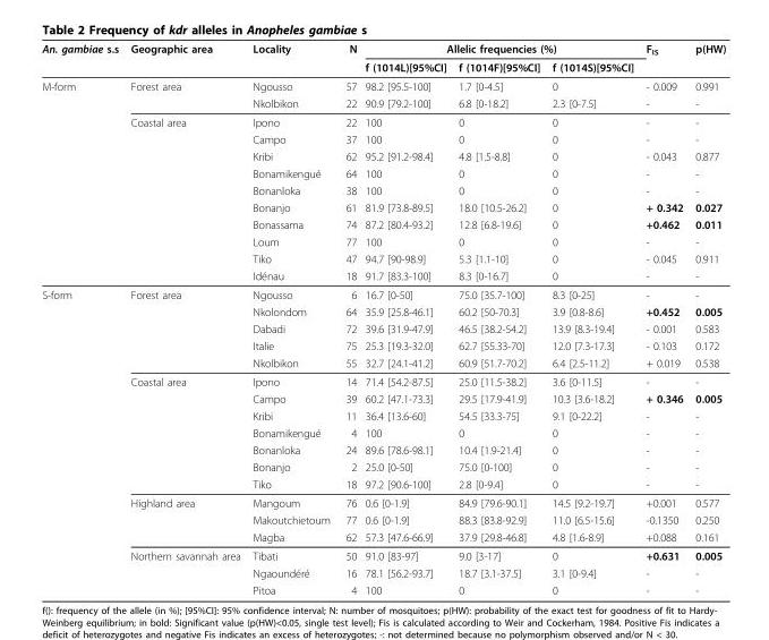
<table><thead><tr><td rowspan="2">An. gambiae s.s</td><td rowspan="2">Geographic area</td><td rowspan="2">Locality</td><td rowspan="2">N</td><td colspan="3">Allelic frequencies (%)</td><td rowspan="2">F<sub>IS</sub></td><td rowspan="2">p(HW)</td></tr><tr><td>f (1014L)[95%CI]</td><td>f (1014F)[95%CI]</td><td>f (1014S)[95%CI]</td></tr></thead><tbody><tr><td rowspan="12">M-form</td><td>Forest area</td><td>Ngousso</td><td>57</td><td>98.2 [95.5-100]</td><td>1.7 [0-4.5]</td><td>0</td><td>- 0.009</td><td>0.991</td></tr><tr><td></td><td>Nkolbikon</td><td>22</td><td>90.9 [79.2-100]</td><td>6.8 [0-18.2]</td><td>2.3 [0-7.5]</td><td>-</td><td>-</td></tr><tr><td>Coastal area</td><td>Ipono</td><td>22</td><td>100</td><td>0</td><td>0</td><td>-</td><td>-</td></tr><tr><td></td><td>Campo</td><td>37</td><td>100</td><td>0</td><td>0</td><td>-</td><td>-</td></tr><tr><td></td><td>Kribi</td><td>62</td><td>95.2 [91.2-98.4]</td><td>4.8 [1.5-8.8]</td><td>0</td><td>- 0.043</td><td>0.877</td></tr><tr><td></td><td>Bonamikengué</td><td>64</td><td>100</td><td>0</td><td>0</td><td>-</td><td>-</td></tr><tr><td></td><td>Bonanloka</td><td>38</td><td>100</td><td>0</td><td>0</td><td>-</td><td>-</td></tr><tr><td></td><td>Bonanjo</td><td>61</td><td>81.9 [73.8-89.5]</td><td>18.0 [10.5-26.2]</td><td>0</td><td>+ 0.342</td><td>0.027</td></tr><tr><td></td><td>Bonassama</td><td>74</td><td>87.2 [80.4-93.2]</td><td>12.8 [6.8-19.6]</td><td>0</td><td>+0.462</td><td>0.011</td></tr><tr><td></td><td>Loum</td><td>77</td><td>100</td><td>0</td><td>0</td><td>-</td><td>-</td></tr><tr><td></td><td>Tiko</td><td>47</td><td>94.7 [90-98.9]</td><td>5.3 [1.1-10]</td><td>0</td><td>- 0.045</td><td>0.911</td></tr><tr><td></td><td>Idénau</td><td>18</td><td>91.7 [83.3-100]</td><td>8.3 [0-16.7]</td><td>0</td><td>-</td><td>-</td></tr><tr><td rowspan="18">S-form</td><td>Forest area</td><td>Ngousso</td><td>6</td><td>16.7 [0-50]</td><td>75.0 [35.7-100]</td><td>8.3 [0-25]</td><td>-</td><td>-</td></tr><tr><td></td><td>Nkolondom</td><td>64</td><td>35.9 [25.8-46.1]</td><td>60.2 [50-70.3]</td><td>3.9 [0.8-8.6]</td><td>+0.452</td><td>0.005</td></tr><tr><td></td><td>Dabadi</td><td>72</td><td>39.6 [31.9-47.9]</td><td>46.5 [38.2-54.2]</td><td>13.9 [8.3-19.4]</td><td>- 0.001</td><td>0.583</td></tr><tr><td></td><td>Italie</td><td>75</td><td>25.3 [19.3-32.0]</td><td>62.7 [55.33-70]</td><td>12.0 [7.3-17.3]</td><td>- 0.103</td><td>0.172</td></tr><tr><td></td><td>Nkolbikon</td><td>55</td><td>32.7 [24.1-41.2]</td><td>60.9 [51.7-70.2]</td><td>6.4 [2.5-11.2]</td><td>+ 0.019</td><td>0.538</td></tr><tr><td>Coastal area</td><td>Ipono</td><td>14</td><td>71.4 [54.2-87.5]</td><td>25.0 [11.5-38.2]</td><td>3.6 [0-11.5]</td><td>-</td><td>-</td></tr><tr><td></td><td>Campo</td><td>39</td><td>60.2 [47.1-73.3]</td><td>29.5 [17.9-41.9]</td><td>10.3 [3.6-18.2]</td><td>+ 0.346</td><td>0.005</td></tr><tr><td></td><td>Kribi</td><td>11</td><td>36.4 [13.6-60]</td><td>54.5 [33.3-75]</td><td>9.1 [0-22.2]</td><td>-</td><td>-</td></tr><tr><td></td><td>Bonamikengué</td><td>4</td><td>100</td><td>0</td><td>0</td><td>-</td><td>-</td></tr><tr><td></td><td>Bonanloka</td><td>24</td><td>89.6 [78.6-98.1]</td><td>10.4 [1.9-21.4]</td><td>0</td><td>-</td><td>-</td></tr><tr><td></td><td>Bonanjo</td><td>2</td><td>25.0 [0-50]</td><td>75.0 [0-100]</td><td>0</td><td>-</td><td>-</td></tr><tr><td></td><td>Tiko</td><td>18</td><td>97.2 [90.6-100]</td><td>2.8 [0-9.4]</td><td>0</td><td>-</td><td>-</td></tr><tr><td>Highland area</td><td>Mangoum</td><td>76</td><td>0.6 [0-1.9]</td><td>84.9 [79.6-90.1]</td><td>14.5 [9.2-19.7]</td><td>+0.001</td><td>0.577</td></tr><tr><td></td><td>Makoutchietoum</td><td>77</td><td>0.6 [0-1.9]</td><td>88.3 [83.8-92.9]</td><td>11.0 [6.5-15.6]</td><td>-0.1350</td><td>0.250</td></tr><tr><td></td><td>Magba</td><td>62</td><td>57.3 [47.6-66.9]</td><td>37.9 [29.8-46.8]</td><td>4.8 [1.6-8.9]</td><td>+0.088</td><td>0.161</td></tr><tr><td>Northern savannah area</td><td>Tibati</td><td>50</td><td>91.0 [83-97]</td><td>9.0 [3-17]</td><td>0</td><td>+0.631</td><td>0.005</td></tr><tr><td></td><td>Ngaoundéré</td><td>16</td><td>78.1 [56.2-93.7]</td><td>18.7 [3.1-37.5]</td><td>3.1 [0-9.4]</td><td>-</td><td>-</td></tr><tr><td></td><td>Pitoa</td><td>4</td><td>100</td><td>0</td><td>0</td><td>-</td><td>-</td></tr></tbody></table>